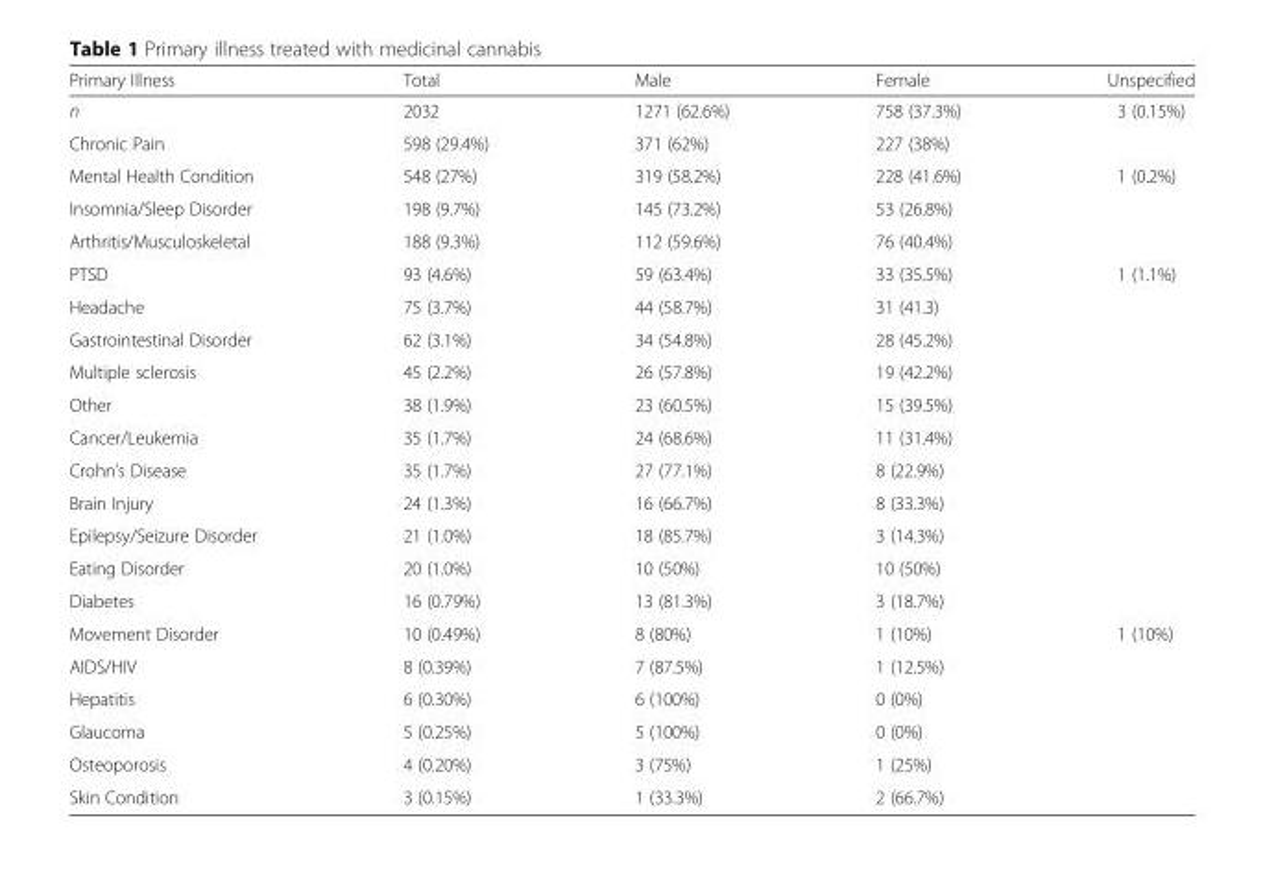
<table><thead><tr><td>Primary Illness</td><td>Total</td><td>Male</td><td>Female</td><td>Unspecified</td></tr></thead><tbody><tr><td>n</td><td>2032</td><td>1271 (62.6%)</td><td>758 (37.3%)</td><td>3 (0.15%)</td></tr><tr><td>Chronic Pain</td><td>598 (29.4%)</td><td>371 (62%)</td><td>227 (38%)</td><td></td></tr><tr><td>Mental Health Condition</td><td>548 (27%)</td><td>319 (58.2%)</td><td>228 (41.6%)</td><td>1 (0.2%)</td></tr><tr><td>Insomnia/Sleep Disorder</td><td>198 (9.7%)</td><td>145 (73.2%)</td><td>53 (26.8%)</td><td></td></tr><tr><td>Arthritis/Musculoskeletal</td><td>188 (9.3%)</td><td>112 (59.6%)</td><td>76 (40.4%)</td><td></td></tr><tr><td>PTSD</td><td>93 (4.6%)</td><td>59 (63.4%)</td><td>33 (35.5%)</td><td>1 (1.1%)</td></tr><tr><td>Headache</td><td>75 (3.7%)</td><td>44 (58.7%)</td><td>31 (41.3)</td><td></td></tr><tr><td>Gastrointestinal Disorder</td><td>62 (3.1%)</td><td>34 (54.8%)</td><td>28 (45.2%)</td><td></td></tr><tr><td>Multiple sclerosis</td><td>45 (2.2%)</td><td>26 (57.8%)</td><td>19 (42.2%)</td><td></td></tr><tr><td>Other</td><td>38 (1.9%)</td><td>23 (60.5%)</td><td>15 (39.5%)</td><td></td></tr><tr><td>Cancer/Leukemia</td><td>35 (1.7%)</td><td>24 (68.6%)</td><td>11 (31.4%)</td><td></td></tr><tr><td>Crohn’s Disease</td><td>35 (1.7%)</td><td>27 (77.1%)</td><td>8 (22.9%)</td><td></td></tr><tr><td>Brain Injury</td><td>24 (1.3%)</td><td>16 (66.7%)</td><td>8 (33.3%)</td><td></td></tr><tr><td>Epilepsy/Seizure Disorder</td><td>21 (1.0%)</td><td>18 (85.7%)</td><td>3 (14.3%)</td><td></td></tr><tr><td>Eating Disorder</td><td>20 (1.0%)</td><td>10 (50%)</td><td>10 (50%)</td><td></td></tr><tr><td>Diabetes</td><td>16 (0.79%)</td><td>13 (81.3%)</td><td>3 (18.7%)</td><td></td></tr><tr><td>Movement Disorder</td><td>10 (0.49%)</td><td>8 (80%)</td><td>1 (10%)</td><td>1 (10%)</td></tr><tr><td>AIDS/HIV</td><td>8 (0.39%)</td><td>7 (87.5%)</td><td>1 (12.5%)</td><td></td></tr><tr><td>Hepatitis</td><td>6 (0.30%)</td><td>6 (100%)</td><td>0 (0%)</td><td></td></tr><tr><td>Glaucoma</td><td>5 (0.25%)</td><td>5 (100%)</td><td>0 (0%)</td><td></td></tr><tr><td>Osteoporosis</td><td>4 (0.20%)</td><td>3 (75%)</td><td>1 (25%)</td><td></td></tr><tr><td>Skin Condition</td><td>3 (0.15%)</td><td>1 (33.3%)</td><td>2 (66.7%)</td><td></td></tr></tbody></table>